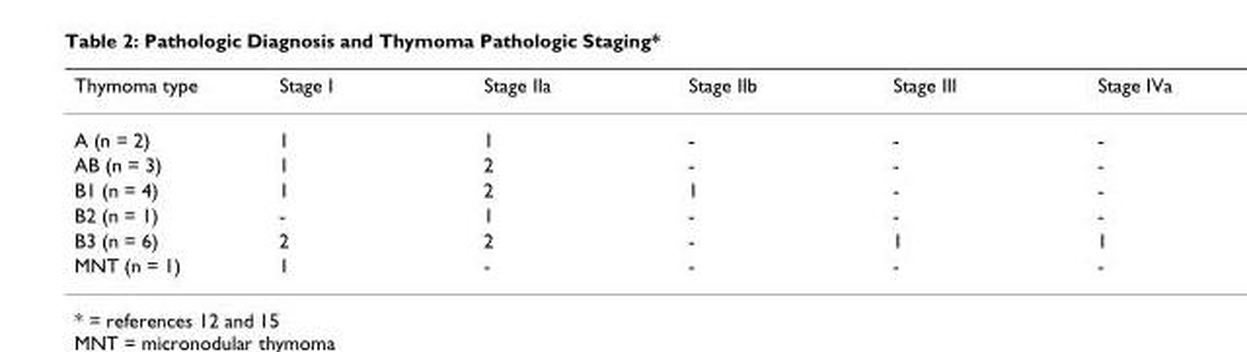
<table><thead><tr><td>Thymoma type</td><td>Stage I</td><td>Stage IIa</td><td>Stage IIb</td><td>Stage III</td><td>Stage IVa</td></tr></thead><tbody><tr><td>A (n = 2)</td><td>1</td><td>1</td><td>-</td><td>-</td><td>-</td></tr><tr><td>AB (n = 3)</td><td>1</td><td>2</td><td>-</td><td>-</td><td>-</td></tr><tr><td>B1 (n = 4)</td><td>1</td><td>2</td><td>1</td><td>-</td><td>-</td></tr><tr><td>B2 (n = 1)</td><td>-</td><td>1</td><td>-</td><td>-</td><td>-</td></tr><tr><td>B3 (n = 6)</td><td>2</td><td>2</td><td>-</td><td>1</td><td>1</td></tr><tr><td>MNT (n = 1)</td><td>1</td><td>-</td><td>-</td><td>-</td><td>-</td></tr></tbody></table>